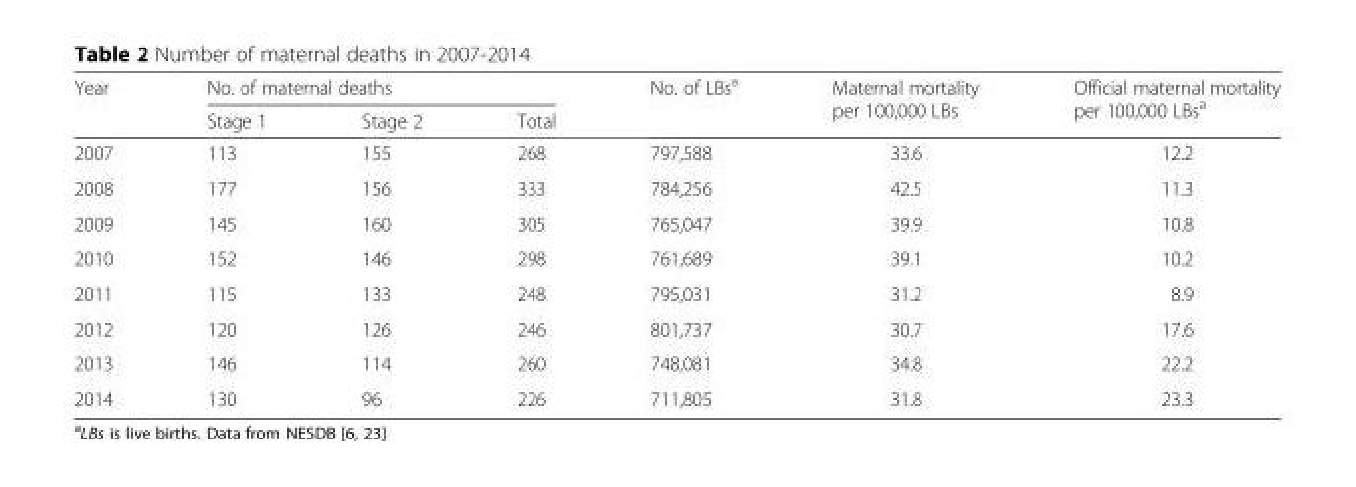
<table><thead><tr><td rowspan="2">Year</td><td colspan="3">No. of maternal deaths</td><td rowspan="2">No. of LBs<sup>a</sup></td><td rowspan="2">Maternal mortality per 100,000 LBs</td><td rowspan="2">Official maternal mortality per 100,000 LBs<sup>a</sup></td></tr><tr><td>Stage 1</td><td>Stage 2</td><td>Total</td></tr></thead><tbody><tr><td>2007</td><td>113</td><td>155</td><td>268</td><td>797,588</td><td>33.6</td><td>12.2</td></tr><tr><td>2008</td><td>177</td><td>156</td><td>333</td><td>784,256</td><td>42.5</td><td>11.3</td></tr><tr><td>2009</td><td>145</td><td>160</td><td>305</td><td>765,047</td><td>39.9</td><td>10.8</td></tr><tr><td>2010</td><td>152</td><td>146</td><td>298</td><td>761,689</td><td>39.1</td><td>10.2</td></tr><tr><td>2011</td><td>115</td><td>133</td><td>248</td><td>795,031</td><td>31.2</td><td>8.9</td></tr><tr><td>2012</td><td>120</td><td>126</td><td>246</td><td>801,737</td><td>30.7</td><td>17.6</td></tr><tr><td>2013</td><td>146</td><td>114</td><td>260</td><td>748,081</td><td>34.8</td><td>22.2</td></tr><tr><td>2014</td><td>130</td><td>96</td><td>226</td><td>711,805</td><td>31.8</td><td>23.3</td></tr></tbody></table>